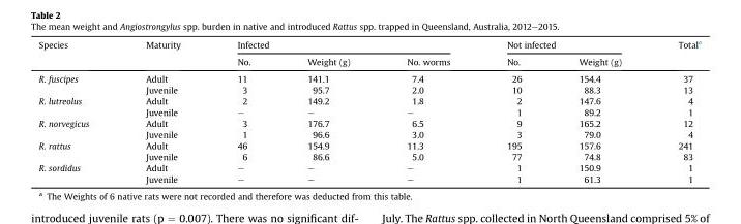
<table><thead><tr><td rowspan="2">Species</td><td rowspan="2">Maturity</td><td colspan="3">Infected</td><td colspan="2">Not infected</td><td rowspan="2">Total<sup>a</sup></td></tr><tr><td>No.</td><td>Weight (g)</td><td>No. worms</td><td>No.</td><td>Weight (g)</td></tr></thead><tbody><tr><td rowspan="2">R. fuscipes</td><td>Adult</td><td>11</td><td>141.1</td><td>7.4</td><td>26</td><td>154.4</td><td>37</td></tr><tr><td>Juvenile</td><td>3</td><td>95.7</td><td>2.0</td><td>10</td><td>88.3</td><td>13</td></tr><tr><td rowspan="2">R. lutreolus</td><td>Adult</td><td>2</td><td>149.2</td><td>1.8</td><td>2</td><td>147.6</td><td>4</td></tr><tr><td>Juvenile</td><td>–</td><td>–</td><td>–</td><td>1</td><td>89.2</td><td>1</td></tr><tr><td rowspan="2">R. norvegicus</td><td>Adult</td><td>3</td><td>176.7</td><td>6.5</td><td>9</td><td>165.2</td><td>12</td></tr><tr><td>Juvenile</td><td>1</td><td>96.6</td><td>3.0</td><td>3</td><td>79.0</td><td>4</td></tr><tr><td rowspan="2">R. rattus</td><td>Adult</td><td>46</td><td>154.9</td><td>11.3</td><td>195</td><td>157.6</td><td>241</td></tr><tr><td>Juvenile</td><td>6</td><td>86.6</td><td>5.0</td><td>77</td><td>74.8</td><td>83</td></tr><tr><td rowspan="2">R. sordidus</td><td>Adult</td><td>–</td><td>–</td><td>–</td><td>1</td><td>150.9</td><td>1</td></tr><tr><td>Juvenile</td><td>–</td><td>–</td><td>–</td><td>1</td><td>61.3</td><td>1</td></tr></tbody></table>